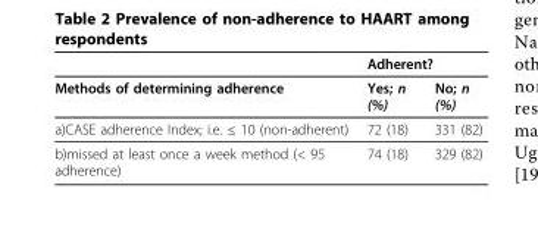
<table><thead><tr><td rowspan="2">Methods of determining adherence</td><td colspan="2">Adherent?</td></tr><tr><td>Yes; n (%)</td><td>No; n (%)</td></tr></thead><tbody><tr><td>a)CASE adherence Index; i.e. ≤ 10 (non-adherent)</td><td>72 (18)</td><td>331 (82)</td></tr><tr><td>b)missed at least once a week method (&lt; 95 adherence)</td><td>74 (18)</td><td>329 (82)</td></tr></tbody></table>